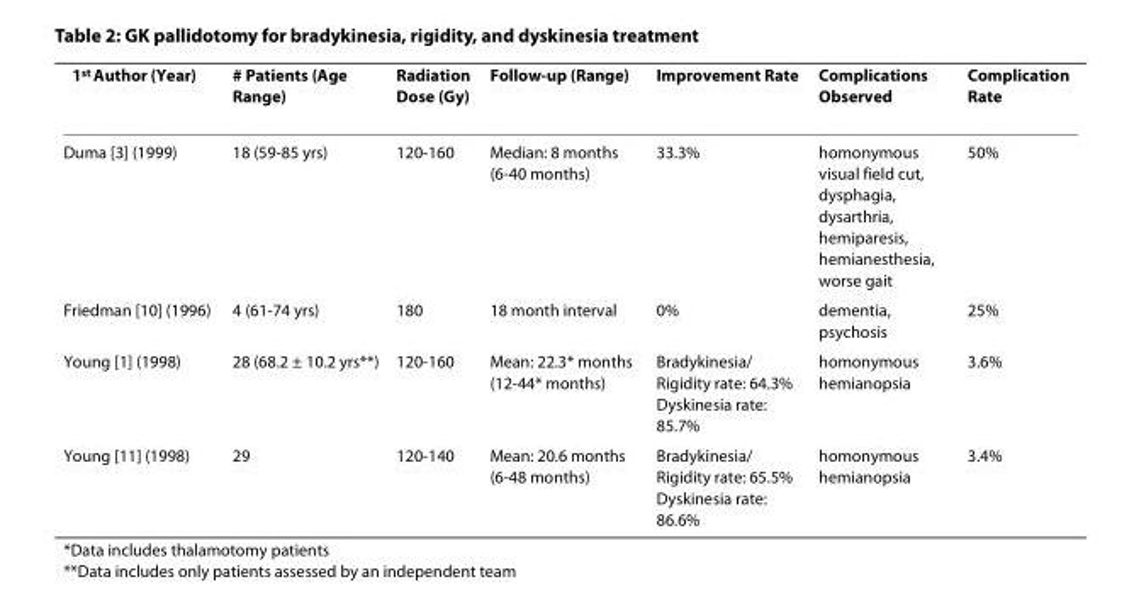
<table><thead><tr><td>1<sup>st</sup> Author (Year)</td><td># Patients (Age Range)</td><td>Radiation Dose (Gy)</td><td>Follow-up (Range)</td><td>Improvement Rate</td><td>Complications Observed</td><td>Complication Rate</td></tr></thead><tbody><tr><td>Duma [3] (1999)</td><td>18 (59-85 yrs)</td><td>120-160</td><td>Median: 8 months (6-40 months)</td><td>33.3%</td><td>homonymous visual field cut, dysphagia, dysarthria, hemiparesis, hemianesthesia, worse gait</td><td>50%</td></tr><tr><td>Friedman [10] (1996)</td><td>4 (61-74 yrs)</td><td>180</td><td>18 month interval</td><td>0%</td><td>dementia, psychosis</td><td>25%</td></tr><tr><td>Young [1] (1998)</td><td>28 (68.2 ± 10.2 yrs**)</td><td>120-160</td><td>Mean: 22.3* months (12-44* months)</td><td>Bradykinesia/ Rigidity rate: 64.3% Dyskinesia rate: 85.7%</td><td>homonymous hemianopsia</td><td>3.6%</td></tr><tr><td>Young [11] (1998)</td><td>29</td><td>120-140</td><td>Mean: 20.6 months (6-48 months)</td><td>Bradykinesia/ Rigidity rate: 65.5% Dyskinesia rate: 86.6%</td><td>homonymous hemianopsia</td><td>3.4%</td></tr></tbody></table>